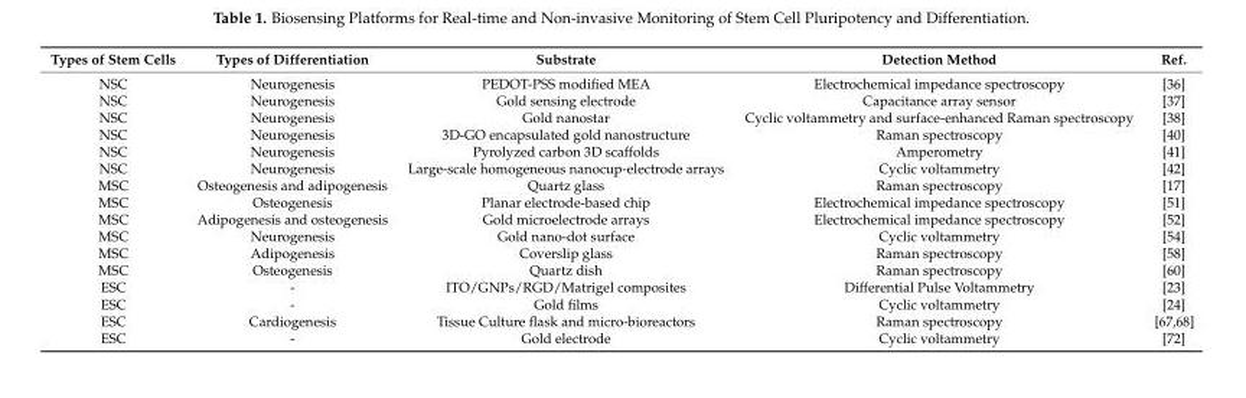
<table><thead><tr><td>Types of Stem Cells</td><td>Types of Differentiation</td><td>Substrate</td><td>Detection Method</td><td>Ref.</td></tr></thead><tbody><tr><td>NSC</td><td>Neurogenesis</td><td>PEDOT-PSS modified MEA</td><td>Electrochemical impedance spectroscopy</td><td>[36]</td></tr><tr><td>NSC</td><td>Neurogenesis</td><td>Gold sensing electrode</td><td>Capacitance array sensor</td><td>[37]</td></tr><tr><td>NSC</td><td>Neurogenesis</td><td>Gold nanostar</td><td>Cyclic voltammetry and surface-enhanced Raman spectroscopy</td><td>[38]</td></tr><tr><td>NSC</td><td>Neurogenesis</td><td>3D-GO encapsulated gold nanostructure</td><td>Raman spectroscopy</td><td>[40]</td></tr><tr><td>NSC</td><td>Neurogenesis</td><td>Pyrolyzed carbon 3D scaffolds</td><td>Amperometry</td><td>[41]</td></tr><tr><td>NSC</td><td>Neurogenesis</td><td>Large-scale homogeneous nanocup-electrode arrays</td><td>Cyclic voltammetry</td><td>[42]</td></tr><tr><td>MSC</td><td>Osteogenesis and adipogenesis</td><td>Quartz glass</td><td>Raman spectroscopy</td><td>[17]</td></tr><tr><td>MSC</td><td>Osteogenesis</td><td>Planar electrode-based chip</td><td>Electrochemical impedance spectroscopy</td><td>[51]</td></tr><tr><td>MSC</td><td>Adipogenesis and osteogenesis</td><td>Gold microelectrode arrays</td><td>Electrochemical impedance spectroscopy</td><td>[52]</td></tr><tr><td>MSC</td><td>Neurogenesis</td><td>Gold nano-dot surface</td><td>Cyclic voltammetry</td><td>[54]</td></tr><tr><td>MSC</td><td>Adipogenesis</td><td>Coverslip glass</td><td>Raman spectroscopy</td><td>[58]</td></tr><tr><td>MSC</td><td>Osteogenesis</td><td>Quartz dish</td><td>Raman spectroscopy</td><td>[60]</td></tr><tr><td>ESC</td><td>-</td><td>ITO/GNPs/RGD/Matrigel composites</td><td>Differential Pulse Voltammetry</td><td>[23]</td></tr><tr><td>ESC</td><td>-</td><td>Gold films</td><td>Cyclic voltammetry</td><td>[24]</td></tr><tr><td>ESC</td><td>Cardiogenesis</td><td>Tissue Culture flask and micro-bioreactors</td><td>Raman spectroscopy</td><td>[67,68]</td></tr><tr><td>ESC</td><td>-</td><td>Gold electrode</td><td>Cyclic voltammetry</td><td>[72]</td></tr></tbody></table>